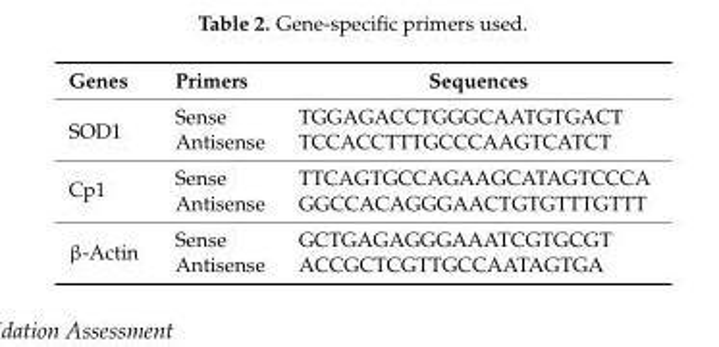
<table><thead><tr><td>Genes</td><td>Primers</td><td>Sequences</td></tr></thead><tbody><tr><td rowspan="2">SOD1</td><td>Sense</td><td>TGGAGACCTGGGCAATGTGACT</td></tr><tr><td>Antisense</td><td>TCCACCTTTGCCCAAGTCATCT</td></tr><tr><td rowspan="2">Cp1</td><td>Sense</td><td>TTCAGTGCCAGAAGCATAGTCCCA</td></tr><tr><td>Antisense</td><td>GGCCACAGGGAACTGTGTTTGTTT</td></tr><tr><td rowspan="2">β-Actin</td><td>Sense</td><td>GCTGAGAGGGAAATCGTGCGT</td></tr><tr><td>Antisense</td><td>ACCGCTCGTTGCCAATAGTGA</td></tr></tbody></table>